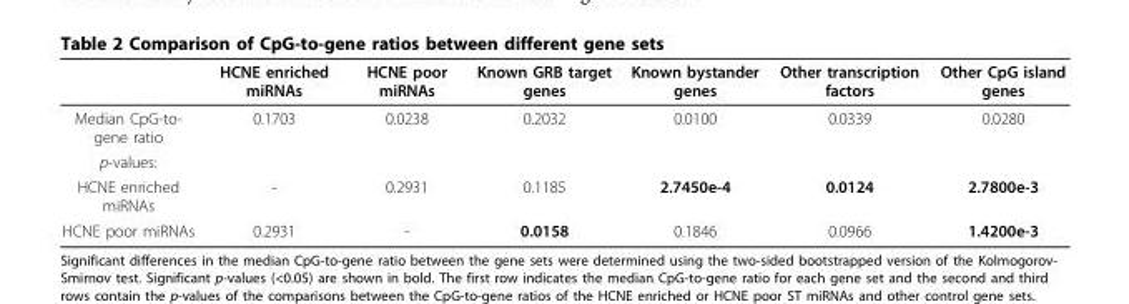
<table><thead><tr><td></td><td>HCNE enriched miRNAs</td><td>HCNE poor miRNAs</td><td>Known GRB target genes</td><td>Known bystander genes</td><td>Other transcription factors</td><td>Other CpG island genes</td></tr></thead><tbody><tr><td>Median CpG-to- gene ratio</td><td>0.1703</td><td>0.0238</td><td>0.2032</td><td>0.0100</td><td>0.0339</td><td>0.0280</td></tr><tr><td colspan="7">p-values:</td></tr><tr><td>HCNE enriched miRNAs</td><td>-</td><td>0.2931</td><td>0.1185</td><td>2.7450e-4</td><td>0.0124</td><td>2.7800e-3</td></tr><tr><td>HCNE poor miRNAs</td><td>0.2931</td><td>-</td><td>0.0158</td><td>0.1846</td><td>0.0966</td><td>1.4200e-3</td></tr></tbody></table>